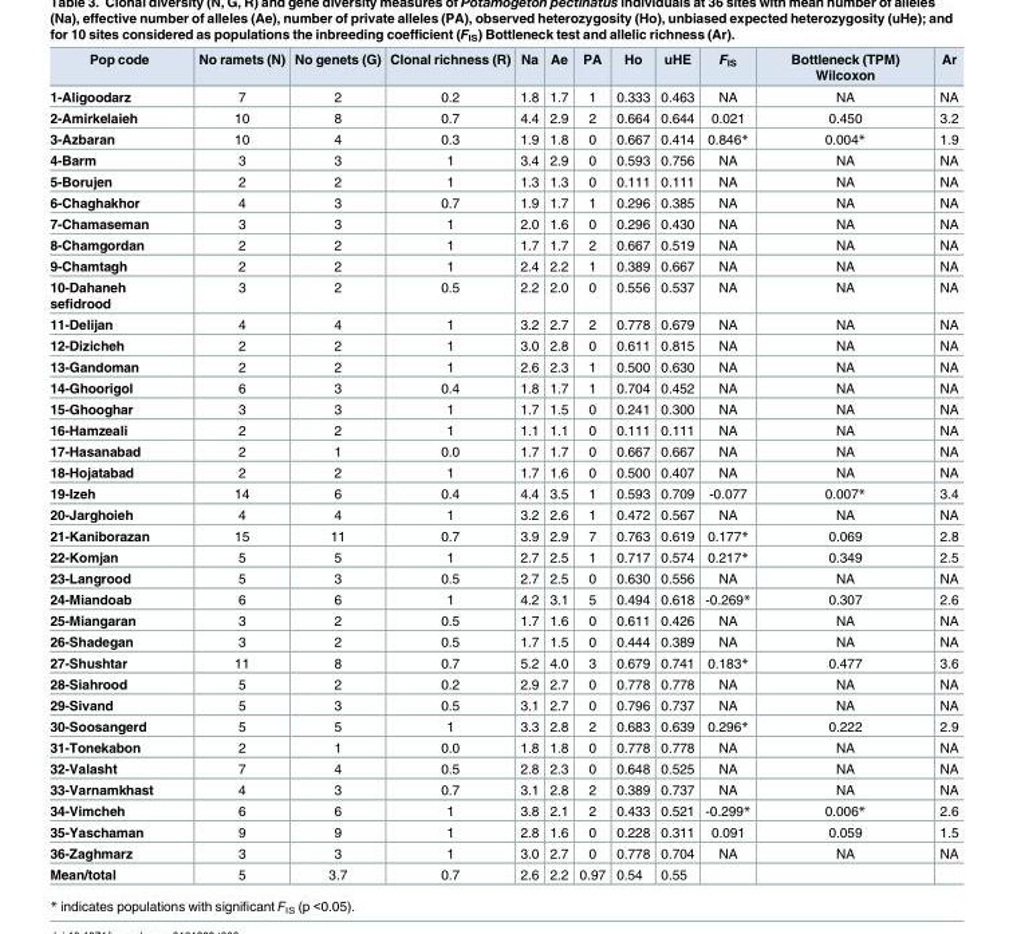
<table><thead><tr><td>Pop code</td><td>No ramets (N)</td><td>No genets (G)</td><td>Clonal richness (R)</td><td>Na</td><td>Ae</td><td>PA</td><td>Ho</td><td>uHE</td><td>F<sub>IS</sub></td><td>Bottleneck (TPM) Wilcoxon</td><td>Ar</td></tr></thead><tbody><tr><td>1-Aligoodarz</td><td>7</td><td>2</td><td>0.2</td><td>1.8</td><td>1.7</td><td>1</td><td>0.333</td><td>0.463</td><td>NA</td><td>NA</td><td>NA</td></tr><tr><td>2-Amirkelaieh</td><td>10</td><td>8</td><td>0.7</td><td>4.4</td><td>2.9</td><td>2</td><td>0.664</td><td>0.644</td><td>0.021</td><td>0.450</td><td>3.2</td></tr><tr><td>3-Azbaran</td><td>10</td><td>4</td><td>0.3</td><td>1.9</td><td>1.8</td><td>0</td><td>0.667</td><td>0.414</td><td>0.846*</td><td>0.004*</td><td>1.9</td></tr><tr><td>4-Barm</td><td>3</td><td>3</td><td>1</td><td>3.4</td><td>2.9</td><td>0</td><td>0.593</td><td>0.756</td><td>NA</td><td>NA</td><td>NA</td></tr><tr><td>5-Borujen</td><td>2</td><td>2</td><td>1</td><td>1.3</td><td>1.3</td><td>0</td><td>0.111</td><td>0.111</td><td>NA</td><td>NA</td><td>NA</td></tr><tr><td>6-Chaghakhor</td><td>4</td><td>3</td><td>0.7</td><td>1.9</td><td>1.7</td><td>1</td><td>0.296</td><td>0.385</td><td>NA</td><td>NA</td><td>NA</td></tr><tr><td>7-Chamaseman</td><td>3</td><td>3</td><td>1</td><td>2.0</td><td>1.6</td><td>0</td><td>0.296</td><td>0.430</td><td>NA</td><td>NA</td><td>NA</td></tr><tr><td>8-Chamgordan</td><td>2</td><td>2</td><td>1</td><td>1.7</td><td>1.7</td><td>2</td><td>0.667</td><td>0.519</td><td>NA</td><td>NA</td><td>NA</td></tr><tr><td>9-Chamtagh</td><td>2</td><td>2</td><td>1</td><td>2.4</td><td>2.2</td><td>1</td><td>0.389</td><td>0.667</td><td>NA</td><td>NA</td><td>NA</td></tr><tr><td>10-Dahaneh sefidrood</td><td>3</td><td>2</td><td>0.5</td><td>2.2</td><td>2.0</td><td>0</td><td>0.556</td><td>0.537</td><td>NA</td><td>NA</td><td>NA</td></tr><tr><td>11-Delijan</td><td>4</td><td>4</td><td>1</td><td>3.2</td><td>2.7</td><td>2</td><td>0.778</td><td>0.679</td><td>NA</td><td>NA</td><td>NA</td></tr><tr><td>12-Dizicheh</td><td>2</td><td>2</td><td>1</td><td>3.0</td><td>2.8</td><td>0</td><td>0.611</td><td>0.815</td><td>NA</td><td>NA</td><td>NA</td></tr><tr><td>13-Gandoman</td><td>2</td><td>2</td><td>1</td><td>2.6</td><td>2.3</td><td>1</td><td>0.500</td><td>0.630</td><td>NA</td><td>NA</td><td>NA</td></tr><tr><td>14-Ghoorigol</td><td>6</td><td>3</td><td>0.4</td><td>1.8</td><td>1.7</td><td>1</td><td>0.704</td><td>0.452</td><td>NA</td><td>NA</td><td>NA</td></tr><tr><td>15-Ghooghar</td><td>3</td><td>3</td><td>1</td><td>1.7</td><td>1.5</td><td>0</td><td>0.241</td><td>0.300</td><td>NA</td><td>NA</td><td>NA</td></tr><tr><td>16-Hamzeali</td><td>2</td><td>2</td><td>1</td><td>1.1</td><td>1.1</td><td>0</td><td>0.111</td><td>0.111</td><td>NA</td><td>NA</td><td>NA</td></tr><tr><td>17-Hasanabad</td><td>2</td><td>1</td><td>0.0</td><td>1.7</td><td>1.7</td><td>0</td><td>0.667</td><td>0.667</td><td>NA</td><td>NA</td><td>NA</td></tr><tr><td>18-Hojatabad</td><td>2</td><td>2</td><td>1</td><td>1.7</td><td>1.6</td><td>0</td><td>0.500</td><td>0.407</td><td>NA</td><td>NA</td><td>NA</td></tr><tr><td>19-Izeh</td><td>14</td><td>6</td><td>0.4</td><td>4.4</td><td>3.5</td><td>1</td><td>0.593</td><td>0.709</td><td>-0.077</td><td>0.007*</td><td>3.4</td></tr><tr><td>20-Jarghoieh</td><td>4</td><td>4</td><td>1</td><td>3.2</td><td>2.6</td><td>1</td><td>0.472</td><td>0.567</td><td>NA</td><td>NA</td><td>NA</td></tr><tr><td>21-Kaniborazan</td><td>15</td><td>11</td><td>0.7</td><td>3.9</td><td>2.9</td><td>7</td><td>0.763</td><td>0.619</td><td>0.177*</td><td>0.069</td><td>2.8</td></tr><tr><td>22-Komjan</td><td>5</td><td>5</td><td>1</td><td>2.7</td><td>2.5</td><td>1</td><td>0.717</td><td>0.574</td><td>0.217*</td><td>0.349</td><td>2.5</td></tr><tr><td>23-Langrood</td><td>5</td><td>3</td><td>0.5</td><td>2.7</td><td>2.5</td><td>0</td><td>0.630</td><td>0.556</td><td>NA</td><td>NA</td><td>NA</td></tr><tr><td>24-Miandoab</td><td>6</td><td>6</td><td>1</td><td>4.2</td><td>3.1</td><td>5</td><td>0.494</td><td>0.618</td><td>-0.269*</td><td>0.307</td><td>2.6</td></tr><tr><td>25-Miangaran</td><td>3</td><td>2</td><td>0.5</td><td>1.7</td><td>1.6</td><td>0</td><td>0.611</td><td>0.426</td><td>NA</td><td>NA</td><td>NA</td></tr><tr><td>26-Shadegan</td><td>3</td><td>2</td><td>0.5</td><td>1.7</td><td>1.5</td><td>0</td><td>0.444</td><td>0.389</td><td>NA</td><td>NA</td><td>NA</td></tr><tr><td>27-Shushtar</td><td>11</td><td>8</td><td>0.7</td><td>5.2</td><td>4.0</td><td>3</td><td>0.679</td><td>0.741</td><td>0.183*</td><td>0.477</td><td>3.6</td></tr><tr><td>28-Siahrood</td><td>5</td><td>2</td><td>0.2</td><td>2.9</td><td>2.7</td><td>0</td><td>0.778</td><td>0.778</td><td>NA</td><td>NA</td><td>NA</td></tr><tr><td>29-Sivand</td><td>5</td><td>3</td><td>0.5</td><td>3.1</td><td>2.7</td><td>0</td><td>0.796</td><td>0.737</td><td>NA</td><td>NA</td><td>NA</td></tr><tr><td>30-Soosangerd</td><td>5</td><td>5</td><td>1</td><td>3.3</td><td>2.8</td><td>2</td><td>0.683</td><td>0.639</td><td>0.296*</td><td>0.222</td><td>2.9</td></tr><tr><td>31-Tonekabon</td><td>2</td><td>1</td><td>0.0</td><td>1.8</td><td>1.8</td><td>0</td><td>0.778</td><td>0.778</td><td>NA</td><td>NA</td><td>NA</td></tr><tr><td>32-Valasht</td><td>7</td><td>4</td><td>0.5</td><td>2.8</td><td>2.3</td><td>0</td><td>0.648</td><td>0.525</td><td>NA</td><td>NA</td><td>NA</td></tr><tr><td>33-Varnamkhast</td><td>4</td><td>3</td><td>0.7</td><td>3.1</td><td>2.8</td><td>2</td><td>0.389</td><td>0.737</td><td>NA</td><td>NA</td><td>NA</td></tr><tr><td>34-Vimcheh</td><td>6</td><td>6</td><td>1</td><td>3.8</td><td>2.1</td><td>2</td><td>0.433</td><td>0.521</td><td>-0.299*</td><td>0.006*</td><td>2.6</td></tr><tr><td>35-Yaschaman</td><td>9</td><td>9</td><td>1</td><td>2.8</td><td>1.6</td><td>0</td><td>0.228</td><td>0.311</td><td>0.091</td><td>0.059</td><td>1.5</td></tr><tr><td>36-Zaghmarz</td><td>3</td><td>3</td><td>1</td><td>3.0</td><td>2.7</td><td>0</td><td>0.778</td><td>0.704</td><td>NA</td><td>NA</td><td>NA</td></tr><tr><td>Mean/total</td><td>5</td><td>3.7</td><td>0.7</td><td>2.6</td><td>2.2</td><td>0.97</td><td>0.54</td><td>0.55</td><td></td><td></td><td></td></tr></tbody></table>